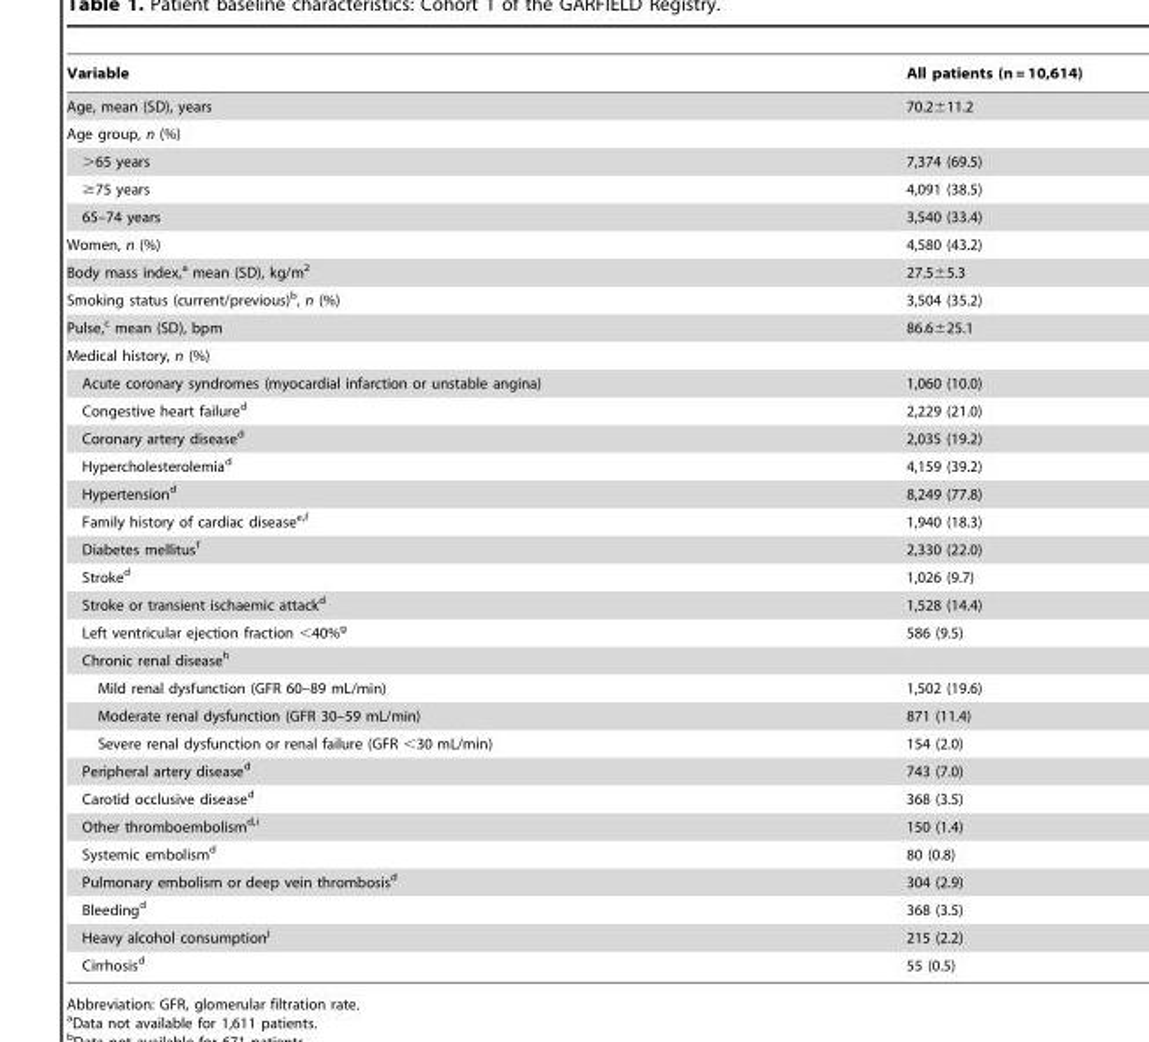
<table><thead><tr><td>Variable</td><td>All patients (n = 10,614)</td></tr></thead><tbody><tr><td>Age, mean (SD), years</td><td>70.2±11.2</td></tr><tr><td colspan="2">Age group, n (%)</td></tr><tr><td>&gt;65 years</td><td>7,374 (69.5)</td></tr><tr><td>≥75 years</td><td>4,091 (38.5)</td></tr><tr><td>65–74 years</td><td>3,540 (33.4)</td></tr><tr><td>Women, n (%)</td><td>4,580 (43.2)</td></tr><tr><td>Body mass index,<sup>a</sup> mean (SD), kg/m<sup>2</sup></td><td>27.5±5.3</td></tr><tr><td>Smoking status (current/previous)<sup>b</sup>, n (%)</td><td>3,504 (35.2)</td></tr><tr><td>Pulse,<sup>c</sup> mean (SD), bpm</td><td>86.6±25.1</td></tr><tr><td colspan="2">Medical history, n (%)</td></tr><tr><td>Acute coronary syndromes (myocardial infarction or unstable angina)</td><td>1,060 (10.0)</td></tr><tr><td>Congestive heart failure<sup>d</sup></td><td>2,229 (21.0)</td></tr><tr><td>Coronary artery disease<sup>d</sup></td><td>2,035 (19.2)</td></tr><tr><td>Hypercholesterolemia<sup>d</sup></td><td>4,159 (39.2)</td></tr><tr><td>Hypertension<sup>d</sup></td><td>8,249 (77.8)</td></tr><tr><td>Family history of cardiac diseasee,f</td><td>1,940 (18.3)</td></tr><tr><td>Diabetes mellitus<sup>f</sup></td><td>2,330 (22.0)</td></tr><tr><td>Stroke<sup>d</sup></td><td>1,026 (9.7)</td></tr><tr><td>Stroke or transient ischaemic attack<sup>d</sup></td><td>1,528 (14.4)</td></tr><tr><td>Left ventricular ejection fraction &lt;40%<sup>g</sup></td><td>586 (9.5)</td></tr><tr><td colspan="2">Chronic renal disease<sup>h</sup></td></tr><tr><td>Mild renal dysfunction (GFR 60–89 mL/min)</td><td>1,502 (19.6)</td></tr><tr><td>Moderate renal dysfunction (GFR 30–59 mL/min)</td><td>871 (11.4)</td></tr><tr><td>Severe renal dysfunction or renal failure (GFR &lt;30 mL/min)</td><td>154 (2.0)</td></tr><tr><td>Peripheral artery disease<sup>d</sup></td><td>743 (7.0)</td></tr><tr><td>Carotid occlusive disease<sup>d</sup></td><td>368 (3.5)</td></tr><tr><td>Other thromboembolismd,i</td><td>150 (1.4)</td></tr><tr><td>Systemic embolism<sup>d</sup></td><td>80 (0.8)</td></tr><tr><td>Pulmonary embolism or deep vein thrombosis<sup>d</sup></td><td>304 (2.9)</td></tr><tr><td>Bleeding<sup>d</sup></td><td>368 (3.5)</td></tr><tr><td>Heavy alcohol consumption<sup>j</sup></td><td>215 (2.2)</td></tr><tr><td>Cirrhosis<sup>d</sup></td><td>55 (0.5)</td></tr></tbody></table>